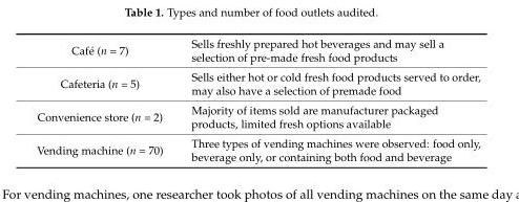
<table><tbody><tr><td>Café (n = 7)</td><td>Sells freshly prepared hot beverages and may sell a selection of pre-made fresh food products</td></tr><tr><td>Cafeteria (n = 5)</td><td>Sells either hot or cold fresh food products served to order, may also have a selection of premade food</td></tr><tr><td>Convenience store (n = 2)</td><td>Majority of items sold are manufacturer packaged products, limited fresh options available</td></tr><tr><td>Vending machine (n = 70)</td><td>Three types of vending machines were observed: food only, beverage only, or containing both food and beverage</td></tr></tbody></table>